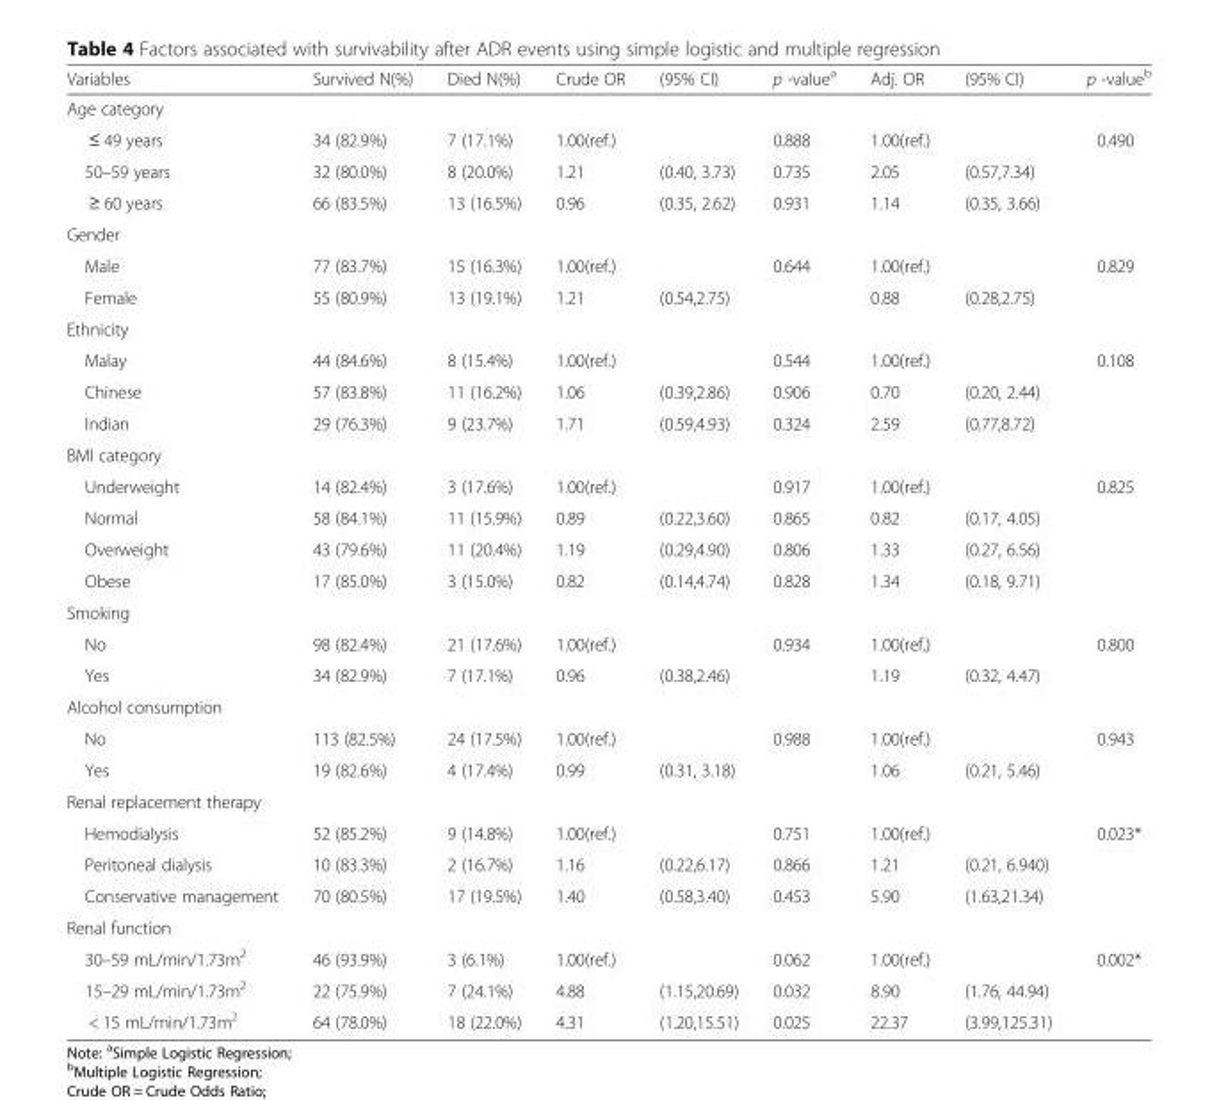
<table><thead><tr><td>Variables</td><td>Survived N(%)</td><td>Died N(%)</td><td>Crude OR</td><td>(95% CI)</td><td>p -value<sup>a</sup></td><td>Adj. OR</td><td>(95% CI)</td><td>p -value<sup>b</sup></td></tr></thead><tbody><tr><td colspan="9">Age category</td></tr><tr><td>≤ 49 years</td><td>34 (82.9%)</td><td>7 (17.1%)</td><td>1.00(ref.)</td><td></td><td>0.888</td><td>1.00(ref.)</td><td></td><td>0.490</td></tr><tr><td>50–59 years</td><td>32 (80.0%)</td><td>8 (20.0%)</td><td>1.21</td><td>(0.40, 3.73)</td><td>0.735</td><td>2.05</td><td>(0.57,7.34)</td><td></td></tr><tr><td>≥ 60 years</td><td>66 (83.5%)</td><td>13 (16.5%)</td><td>0.96</td><td>(0.35, 2.62)</td><td>0.931</td><td>1.14</td><td>(0.35, 3.66)</td><td></td></tr><tr><td colspan="9">Gender</td></tr><tr><td>Male</td><td>77 (83.7%)</td><td>15 (16.3%)</td><td>1.00(ref.)</td><td></td><td>0.644</td><td>1.00(ref.)</td><td></td><td>0.829</td></tr><tr><td>Female</td><td>55 (80.9%)</td><td>13 (19.1%)</td><td>1.21</td><td>(0.54,2.75)</td><td></td><td>0.88</td><td>(0.28,2.75)</td><td></td></tr><tr><td colspan="9">Ethnicity</td></tr><tr><td>Malay</td><td>44 (84.6%)</td><td>8 (15.4%)</td><td>1.00(ref.)</td><td></td><td>0.544</td><td>1.00(ref.)</td><td></td><td>0.108</td></tr><tr><td>Chinese</td><td>57 (83.8%)</td><td>11 (16.2%)</td><td>1.06</td><td>(0.39,2.86)</td><td>0.906</td><td>0.70</td><td>(0.20, 2.44)</td><td></td></tr><tr><td>Indian</td><td>29 (76.3%)</td><td>9 (23.7%)</td><td>1.71</td><td>(0.59,4.93)</td><td>0.324</td><td>2.59</td><td>(0.77,8.72)</td><td></td></tr><tr><td colspan="9">BMI category</td></tr><tr><td>Underweight</td><td>14 (82.4%)</td><td>3 (17.6%)</td><td>1.00(ref.)</td><td></td><td>0.917</td><td>1.00(ref.)</td><td></td><td>0.825</td></tr><tr><td>Normal</td><td>58 (84.1%)</td><td>11 (15.9%)</td><td>0.89</td><td>(0.22,3.60)</td><td>0.865</td><td>0.82</td><td>(0.17, 4.05)</td><td></td></tr><tr><td>Overweight</td><td>43 (79.6%)</td><td>11 (20.4%)</td><td>1.19</td><td>(0.29,4.90)</td><td>0.806</td><td>1.33</td><td>(0.27, 6.56)</td><td></td></tr><tr><td>Obese</td><td>17 (85.0%)</td><td>3 (15.0%)</td><td>0.82</td><td>(0.14,4.74)</td><td>0.828</td><td>1.34</td><td>(0.18, 9.71)</td><td></td></tr><tr><td colspan="9">Smoking</td></tr><tr><td>No</td><td>98 (82.4%)</td><td>21 (17.6%)</td><td>1.00(ref.)</td><td></td><td>0.934</td><td>1.00(ref.)</td><td></td><td>0.800</td></tr><tr><td>Yes</td><td>34 (82.9%)</td><td>7 (17.1%)</td><td>0.96</td><td>(0.38,2.46)</td><td></td><td>1.19</td><td>(0.32, 4.47)</td><td></td></tr><tr><td colspan="9">Alcohol consumption</td></tr><tr><td>No</td><td>113 (82.5%)</td><td>24 (17.5%)</td><td>1.00(ref.)</td><td></td><td>0.988</td><td>1.00(ref.)</td><td></td><td>0.943</td></tr><tr><td>Yes</td><td>19 (82.6%)</td><td>4 (17.4%)</td><td>0.99</td><td>(0.31, 3.18)</td><td></td><td>1.06</td><td>(0.21, 5.46)</td><td></td></tr><tr><td colspan="9">Renal replacement therapy</td></tr><tr><td>Hemodialysis</td><td>52 (85.2%)</td><td>9 (14.8%)</td><td>1.00(ref.)</td><td></td><td>0.751</td><td>1.00(ref.)</td><td></td><td>0.023*</td></tr><tr><td>Peritoneal dialysis</td><td>10 (83.3%)</td><td>2 (16.7%)</td><td>1.16</td><td>(0.22,6.17)</td><td>0.866</td><td>1.21</td><td>(0.21, 6.940)</td><td></td></tr><tr><td>Conservative management</td><td>70 (80.5%)</td><td>17 (19.5%)</td><td>1.40</td><td>(0.58,3.40)</td><td>0.453</td><td>5.90</td><td>(1.63,21.34)</td><td></td></tr><tr><td colspan="9">Renal function</td></tr><tr><td>30–59 mL/min/1.73m<sup>2</sup></td><td>46 (93.9%)</td><td>3 (6.1%)</td><td>1.00(ref.)</td><td></td><td>0.062</td><td>1.00(ref.)</td><td></td><td>0.002*</td></tr><tr><td>15–29 mL/min/1.73m<sup>2</sup></td><td>22 (75.9%)</td><td>7 (24.1%)</td><td>4.88</td><td>(1.15,20.69)</td><td>0.032</td><td>8.90</td><td>(1.76, 44.94)</td><td></td></tr><tr><td>&lt; 15 mL/min/1.73m<sup>2</sup></td><td>64 (78.0%)</td><td>18 (22.0%)</td><td>4.31</td><td>(1.20,15.51)</td><td>0.025</td><td>22.37</td><td>(3.99,125.31)</td><td></td></tr></tbody></table>